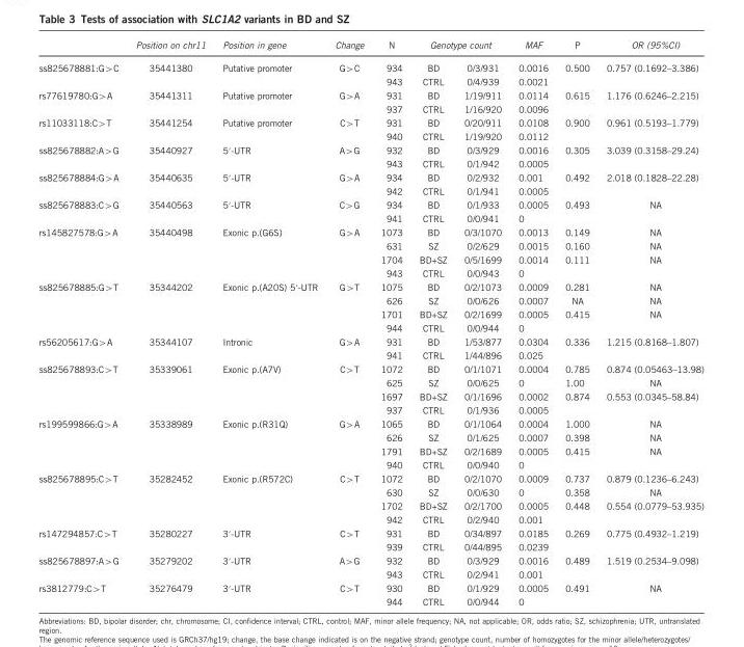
<table><thead><tr><td rowspan="2">ss825678881:G&gt;C</td><td rowspan="2">Position on chr11 35441380</td><td rowspan="2">Position in gene Putative promoter</td><td rowspan="2">Change G&gt;C</td><td rowspan="2">N 934</td><td colspan="2">Genotype count</td><td rowspan="2">MAF 0.0016</td><td rowspan="2">P 0.500</td><td rowspan="2">OR (95%CI) 0.757 (0.1692–3.386)</td></tr><tr><td>BD</td><td>0/3/931</td></tr></thead><tbody><tr><td></td><td></td><td></td><td></td><td>943</td><td>CTRL</td><td>0/4/939</td><td>0.0021</td><td></td><td></td></tr><tr><td rowspan="2">rs77619780:G&gt;A</td><td>35441311</td><td>Putative promoter</td><td>G&gt;A</td><td>931</td><td>BD</td><td>1/19/911</td><td>0.0114</td><td>0.615</td><td>1.176 (0.6246–2.215)</td></tr><tr><td></td><td></td><td></td><td>937</td><td>CTRL</td><td>1/16/920</td><td>0.0096</td><td></td><td></td></tr><tr><td rowspan="2">rs11033118:C&gt;T</td><td>35441254</td><td>Putative promoter</td><td>C&gt;T</td><td>931</td><td>BD</td><td>0/20/911</td><td>0.0108</td><td>0.900</td><td>0.961 (0.5193–1.779)</td></tr><tr><td></td><td></td><td></td><td>940</td><td>CTRL</td><td>1/19/920</td><td>0.0112</td><td></td><td></td></tr><tr><td rowspan="2">ss825678882:A&gt;G</td><td>35440927</td><td>5′-UTR</td><td>A&gt;G</td><td>932</td><td>BD</td><td>0/3/929</td><td>0.0016</td><td>0.305</td><td>3.039 (0.3158–29.24)</td></tr><tr><td></td><td></td><td></td><td>943</td><td>CTRL</td><td>0/1/942</td><td>0.0005</td><td></td><td></td></tr><tr><td rowspan="2">ss825678884:G&gt;A</td><td>35440635</td><td>5′-UTR</td><td>G&gt;A</td><td>934</td><td>BD</td><td>0/2/932</td><td>0.001</td><td>0.492</td><td>2.018 (0.1828–22.28)</td></tr><tr><td></td><td></td><td></td><td>942</td><td>CTRL</td><td>0/1/941</td><td>0.0005</td><td></td><td></td></tr><tr><td rowspan="2">ss825678883:C&gt;G</td><td>35440563</td><td>5′-UTR</td><td>C&gt;G</td><td>934</td><td>BD</td><td>0/1/933</td><td>0.0005</td><td>0.493</td><td>NA</td></tr><tr><td></td><td></td><td></td><td>941</td><td>CTRL</td><td>0/0/941</td><td>0</td><td></td><td></td></tr><tr><td rowspan="4">rs145827578:G&gt;A</td><td>35440498</td><td>Exonic p.(G6S)</td><td>G&gt;A</td><td>1073</td><td>BD</td><td>0/3/1070</td><td>0.0013</td><td>0.149</td><td>NA</td></tr><tr><td></td><td></td><td></td><td>631</td><td>SZ</td><td>0/2/629</td><td>0.0015</td><td>0.160</td><td>NA</td></tr><tr><td></td><td></td><td></td><td>1704</td><td>BD+SZ</td><td>0/5/1699</td><td>0.0014</td><td>0.111</td><td>NA</td></tr><tr><td></td><td></td><td></td><td>943</td><td>CTRL</td><td>0/0/943</td><td>0</td><td></td><td></td></tr><tr><td rowspan="4">ss825678885:G&gt;T</td><td>35344202</td><td>Exonic p.(A20S) 5′-UTR</td><td>G&gt;T</td><td>1075</td><td>BD</td><td>0/2/1073</td><td>0.0009</td><td>0.281</td><td>NA</td></tr><tr><td></td><td></td><td></td><td>626</td><td>SZ</td><td>0/0/626</td><td>0.0007</td><td>NA</td><td>NA</td></tr><tr><td></td><td></td><td></td><td>1701</td><td>BD+SZ</td><td>0/2/1699</td><td>0.0005</td><td>0.415</td><td>NA</td></tr><tr><td></td><td></td><td></td><td>944</td><td>CTRL</td><td>0/0/944</td><td>0</td><td></td><td></td></tr><tr><td rowspan="2">rs56205617:G&gt;A</td><td>35344107</td><td>Intronic</td><td>G&gt;A</td><td>931</td><td>BD</td><td>1/53/877</td><td>0.0304</td><td>0.336</td><td>1.215 (0.8168–1.807)</td></tr><tr><td></td><td></td><td></td><td>941</td><td>CTRL</td><td>1/44/896</td><td>0.025</td><td></td><td></td></tr><tr><td rowspan="4">ss825678893:C&gt;T</td><td>35339061</td><td>Exonic p.(A7V)</td><td>C&gt;T</td><td>1072</td><td>BD</td><td>0/1/1071</td><td>0.0004</td><td>0.785</td><td>0.874 (0.05463–13.98)</td></tr><tr><td></td><td></td><td></td><td>625</td><td>SZ</td><td>0/0/625</td><td>0</td><td>1.00</td><td>NA</td></tr><tr><td></td><td></td><td></td><td>1697</td><td>BD+SZ</td><td>0/1/1696</td><td>0.0002</td><td>0.874</td><td>0.553 (0.0345–58.84)</td></tr><tr><td></td><td></td><td></td><td>937</td><td>CTRL</td><td>0/1/936</td><td>0.0005</td><td></td><td></td></tr><tr><td rowspan="4">rs199599866:G&gt;A</td><td>35338989</td><td>Exonic p.(R31Q)</td><td>G&gt;A</td><td>1065</td><td>BD</td><td>0/1/1064</td><td>0.0004</td><td>1.000</td><td>NA</td></tr><tr><td></td><td></td><td></td><td>626</td><td>SZ</td><td>0/1/625</td><td>0.0007</td><td>0.398</td><td>NA</td></tr><tr><td></td><td></td><td></td><td>1791</td><td>BD+SZ</td><td>0/2/1689</td><td>0.0005</td><td>0.415</td><td>NA</td></tr><tr><td></td><td></td><td></td><td>940</td><td>CTRL</td><td>0/0/940</td><td>0</td><td></td><td></td></tr><tr><td rowspan="4">ss825678895:C&gt;T</td><td>35282452</td><td>Exonic p.(R572C)</td><td>C&gt;T</td><td>1072</td><td>BD</td><td>0/2/1070</td><td>0.0009</td><td>0.737</td><td>0.879 (0.1236–6.243)</td></tr><tr><td></td><td></td><td></td><td>630</td><td>SZ</td><td>0/0/630</td><td>0</td><td>0.358</td><td>NA</td></tr><tr><td></td><td></td><td></td><td>1702</td><td>BD+SZ</td><td>0/2/1700</td><td>0.0005</td><td>0.448</td><td>0.554 (0.0779–53.935)</td></tr><tr><td></td><td></td><td></td><td>942</td><td>CTRL</td><td>0/2/940</td><td>0.001</td><td></td><td></td></tr><tr><td rowspan="2">rs147294857:C&gt;T</td><td>35280227</td><td>3′-UTR</td><td>C&gt;T</td><td>931</td><td>BD</td><td>0/34/897</td><td>0.0185</td><td>0.269</td><td>0.775 (0.4932–1.219)</td></tr><tr><td></td><td></td><td></td><td>939</td><td>CTRL</td><td>0/44/895</td><td>0.0239</td><td></td><td></td></tr><tr><td rowspan="2">ss825678897:A&gt;G</td><td>35279202</td><td>3′-UTR</td><td>A&gt;G</td><td>932</td><td>BD</td><td>0/3/929</td><td>0.0016</td><td>0.489</td><td>1.519 (0.2534–9.098)</td></tr><tr><td></td><td></td><td></td><td>943</td><td>CTRL</td><td>0/2/941</td><td>0.001</td><td></td><td></td></tr><tr><td rowspan="2">rs3812779:C&gt;T</td><td>35276479</td><td>3′-UTR</td><td>C&gt;T</td><td>930</td><td>BD</td><td>0/1/929</td><td>0.0005</td><td>0.491</td><td>NA</td></tr><tr><td></td><td></td><td></td><td>944</td><td>CTRL</td><td>0/0/944</td><td>0</td><td></td><td></td></tr></tbody></table>